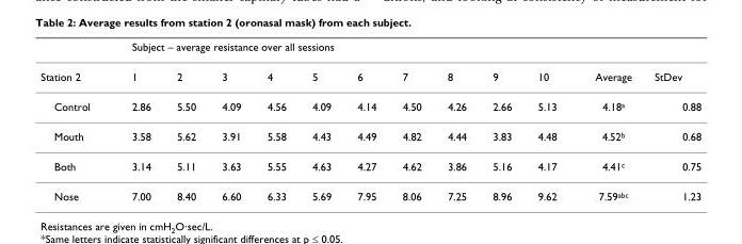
<table><thead><tr><td rowspan="2">Station 2</td><td colspan="10">Subject – average resistance over all sessions</td><td rowspan="2">Average</td><td rowspan="2">StDev</td></tr><tr><td>1</td><td>2</td><td>3</td><td>4</td><td>5</td><td>6</td><td>7</td><td>8</td><td>9</td><td>10</td></tr></thead><tbody><tr><td>Control</td><td>2.86</td><td>5.50</td><td>4.09</td><td>4.56</td><td>4.09</td><td>4.14</td><td>4.50</td><td>4.26</td><td>2.66</td><td>5.13</td><td>4.18<sup>a</sup></td><td>0.88</td></tr><tr><td>Mouth</td><td>3.58</td><td>5.62</td><td>3.91</td><td>5.58</td><td>4.43</td><td>4.49</td><td>4.82</td><td>4.44</td><td>3.83</td><td>4.48</td><td>4.52<sup>b</sup></td><td>0.68</td></tr><tr><td>Both</td><td>3.14</td><td>5.11</td><td>3.63</td><td>5.55</td><td>4.63</td><td>4.27</td><td>4.62</td><td>3.86</td><td>5.16</td><td>4.17</td><td>4.41<sup>c</sup></td><td>0.75</td></tr><tr><td>Nose</td><td>7.00</td><td>8.40</td><td>6.60</td><td>6.33</td><td>5.69</td><td>7.95</td><td>8.06</td><td>7.25</td><td>8.96</td><td>9.62</td><td>7.59<sup>abc</sup></td><td>1.23</td></tr></tbody></table>